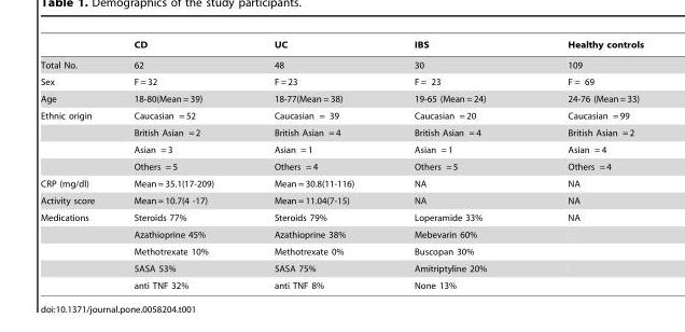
<table><thead><tr><td></td><td>CD</td><td>UC</td><td>IBS</td><td>Healthy controls</td></tr></thead><tbody><tr><td>Total No.</td><td>62</td><td>48</td><td>30</td><td>109</td></tr><tr><td>Sex</td><td>F = 32</td><td>F = 23</td><td>F = 23</td><td>F = 69</td></tr><tr><td>Age</td><td>18-80(Mean = 39)</td><td>18-77(Mean = 38)</td><td>19-65 (Mean = 24)</td><td>24-76 (Mean = 33)</td></tr><tr><td rowspan="4">Ethnic origin</td><td>Caucasian = 52</td><td>Caucasian = 39</td><td>Caucasian = 20</td><td>Caucasian = 99</td></tr><tr><td>British Asian = 2</td><td>British Asian = 4</td><td>British Asian = 4</td><td>British Asian = 2</td></tr><tr><td>Asian = 3</td><td>Asian = 1</td><td>Asian = 1</td><td>Asian = 4</td></tr><tr><td>Others = 5</td><td>Others = 4</td><td>Others = 5</td><td>Others = 4</td></tr><tr><td>CRP (mg/dl)</td><td>Mean = 35.1(17-209)</td><td>Mean = 30.8(11-116)</td><td>NA</td><td>NA</td></tr><tr><td>Activity score</td><td>Mean = 10.7(4 -17)</td><td>Mean = 11.04(7-15)</td><td>NA</td><td>NA</td></tr><tr><td rowspan="5">Medications</td><td>Steroids 77%</td><td>Steroids 79%</td><td>Loperamide 33%</td><td>NA</td></tr><tr><td>Azathioprine 45%</td><td>Azathioprine 38%</td><td>Mebevarin 60%</td><td></td></tr><tr><td>Methotrexate 10%</td><td>Methotrexate 0%</td><td>Buscopan 30%</td><td></td></tr><tr><td>5ASA 53%</td><td>5ASA 75%</td><td>Amitriptyline 20%</td><td></td></tr><tr><td>anti TNF 32%</td><td>anti TNF 8%</td><td>None 13%</td><td></td></tr></tbody></table>